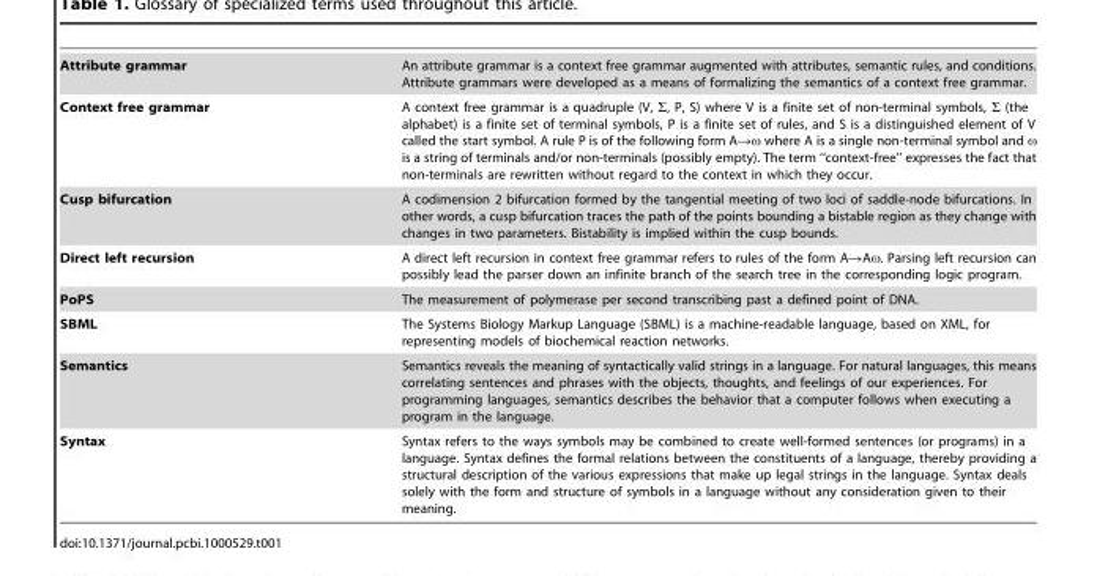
<table><tbody><tr><td>Attribute grammar</td><td>An attribute grammar is a context free grammar augmented with attributes, semantic rules, and conditions. Attribute grammars were developed as a means of formalizing the semantics of a context free grammar.</td></tr><tr><td>Context free grammar</td><td>A context free grammar is a quadruple (V, S, P, S) where V is a finite set of non-terminal symbols, S (the alphabet) is a finite set of terminal symbols, P is a finite set of rules, and S is a distinguished element of V called the start symbol. A rule P is of the following form ARv where A is a single non-terminal symbol and v is a string of terminals and/or non-terminals (possibly empty). The term ‘‘context-free’’ expresses the fact that non-terminals are rewritten without regard to the context in which they occur.</td></tr><tr><td>Cusp bifurcation</td><td>A codimension 2 bifurcation formed by the tangential meeting of two loci of saddle-node bifurcations. In other words, a cusp bifurcation traces the path of the points bounding a bistable region as they change with changes in two parameters. Bistability is implied within the cusp bounds.</td></tr><tr><td>Direct left recursion</td><td>A direct left recursion in context free grammar refers to rules of the form A→Aω. Parsing left recursion can possibly lead the parser down an infinite branch of the search tree in the corresponding logic program.</td></tr><tr><td>PoPS</td><td>The measurement of polymerase per second transcribing past a defined point of DNA.</td></tr><tr><td>SBML</td><td>The Systems Biology Markup Language (SBML) is a machine-readable language, based on XML, for representing models of biochemical reaction networks.</td></tr><tr><td>Semantics</td><td>Semantics reveals the meaning of syntactically valid strings in a language. For natural languages, this means correlating sentences and phrases with the objects, thoughts, and feelings of our experiences. For programming languages, semantics describes the behavior that a computer follows when executing a program in the language.</td></tr><tr><td>Syntax</td><td>Syntax refers to the ways symbols may be combined to create well-formed sentences (or programs) in a language. Syntax defines the formal relations between the constituents of a language, thereby providing a structural description of the various expressions that make up legal strings in the language. Syntax deals solely with the form and structure of symbols in a language without any consideration given to their meaning.</td></tr></tbody></table>